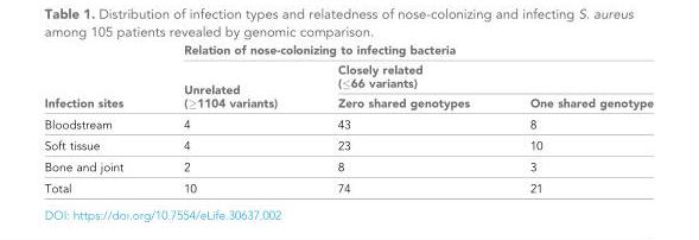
<table><thead><tr><td rowspan="3">Infection sites</td><td colspan="3">Relation of nose-colonizing to infecting bacteria</td></tr><tr><td rowspan="2">Unrelated (≥1104 variants)</td><td colspan="2">Closely related (≤66 variants)</td></tr><tr><td>Zero shared genotypes</td><td>One shared genotype</td></tr></thead><tbody><tr><td>Bloodstream</td><td>4</td><td>43</td><td>8</td></tr><tr><td>Soft tissue</td><td>4</td><td>23</td><td>10</td></tr><tr><td>Bone and joint</td><td>2</td><td>8</td><td>3</td></tr><tr><td>Total</td><td>10</td><td>74</td><td>21</td></tr></tbody></table>